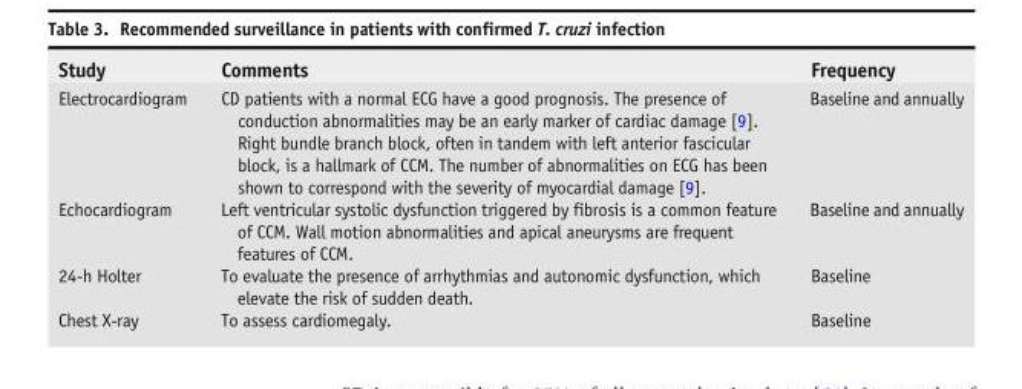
<table><thead><tr><td>Study</td><td>Comments</td><td>Frequency</td></tr></thead><tbody><tr><td>Electrocardiogram</td><td>CD patients with a normal ECG have a good prognosis. The presence of conduction abnormalities may be an early marker of cardiac damage [9]. Right bundle branch block, often in tandem with left anterior fascicular block, is a hallmark of CCM. The number of abnormalities on ECG has been shown to correspond with the severity of myocardial damage [9].</td><td>Baseline and annually</td></tr><tr><td>Echocardiogram</td><td>Left ventricular systolic dysfunction triggered by fibrosis is a common feature of CCM. Wall motion abnormalities and apical aneurysms are frequent features of CCM.</td><td>Baseline and annually</td></tr><tr><td>24-h Holter</td><td>To evaluate the presence of arrhythmias and autonomic dysfunction, which elevate the risk of sudden death.</td><td>Baseline</td></tr><tr><td>Chest X-ray</td><td>To assess cardiomegaly.</td><td>Baseline</td></tr></tbody></table>